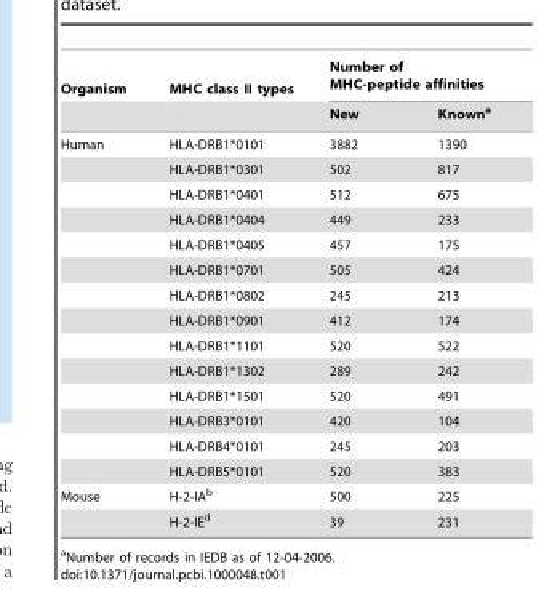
<table><thead><tr><td rowspan="2">Organism</td><td rowspan="2">MHC class II types</td><td colspan="2">Number of MHC-peptide affinities</td></tr><tr><td>New</td><td>Known<sup>a</sup></td></tr></thead><tbody><tr><td rowspan="14">Human</td><td>HLA-DRB1*0101</td><td>3882</td><td>1390</td></tr><tr><td>HLA-DRB1*0301</td><td>502</td><td>817</td></tr><tr><td>HLA-DRB1*0401</td><td>512</td><td>675</td></tr><tr><td>HLA-DRB1*0404</td><td>449</td><td>233</td></tr><tr><td>HLA-DRB1*0405</td><td>457</td><td>175</td></tr><tr><td>HLA-DRB1*0701</td><td>505</td><td>424</td></tr><tr><td>HLA-DRB1*0802</td><td>245</td><td>213</td></tr><tr><td>HLA-DRB1*0901</td><td>412</td><td>174</td></tr><tr><td>HLA-DRB1*1101</td><td>520</td><td>522</td></tr><tr><td>HLA-DRB1*1302</td><td>289</td><td>242</td></tr><tr><td>HLA-DRB1*1501</td><td>520</td><td>491</td></tr><tr><td>HLA-DRB3*0101</td><td>420</td><td>104</td></tr><tr><td>HLA-DRB4*0101</td><td>245</td><td>203</td></tr><tr><td>HLA-DRB5*0101</td><td>520</td><td>383</td></tr><tr><td rowspan="2">Mouse</td><td>H-2-IA<sup>b</sup></td><td>500</td><td>225</td></tr><tr><td>H-2-IE<sup>d</sup></td><td>39</td><td>231</td></tr></tbody></table>